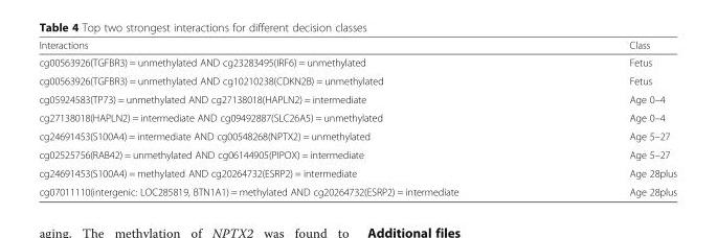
<table><thead><tr><td>Interactions</td><td>Class</td></tr></thead><tbody><tr><td>cg00563926(TGFBR3) = unmethylated AND cg23283495(IRF6) = unmethylated</td><td>Fetus</td></tr><tr><td>cg00563926(TGFBR3) = unmethylated AND cg10210238(CDKN2B) = unmethylated</td><td>Fetus</td></tr><tr><td>cg05924583(TP73) = unmethylated AND cg27138018(HAPLN2) = intermediate</td><td>Age 0–4</td></tr><tr><td>cg27138018(HAPLN2) = intermediate AND cg09492887(SLC26A5) = unmethylated</td><td>Age 0–4</td></tr><tr><td>cg24691453(S100A4) = intermediate AND cg00548268(NPTX2) = unmethylated</td><td>Age 5–27</td></tr><tr><td>cg02525756(RAB42) = unmethylated AND cg06144905(PIPOX) = intermediate</td><td>Age 5–27</td></tr><tr><td>cg24691453(S100A4) = methylated AND cg20264732(ESRP2) = intermediate</td><td>Age 28plus</td></tr><tr><td>cg07011110(intergenic: LOC285819, BTN1A1) = methylated AND cg20264732(ESRP2) = intermediate</td><td>Age 28plus</td></tr></tbody></table>